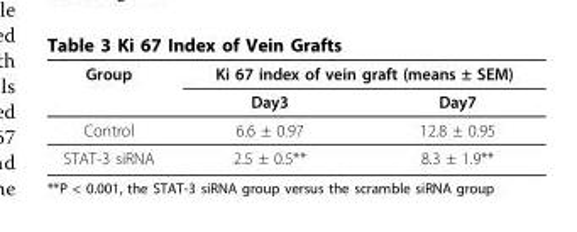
<table><thead><tr><td rowspan="2">Group</td><td colspan="2">Ki 67 index of vein graft (means ± SEM)</td></tr><tr><td>Day3</td><td>Day7</td></tr></thead><tbody><tr><td>Control</td><td>6.6 ± 0.97</td><td>12.8 ± 0.95</td></tr><tr><td>STAT-3 siRNA</td><td>2.5 ± 0.5**</td><td>8.3 ± 1.9**</td></tr></tbody></table>